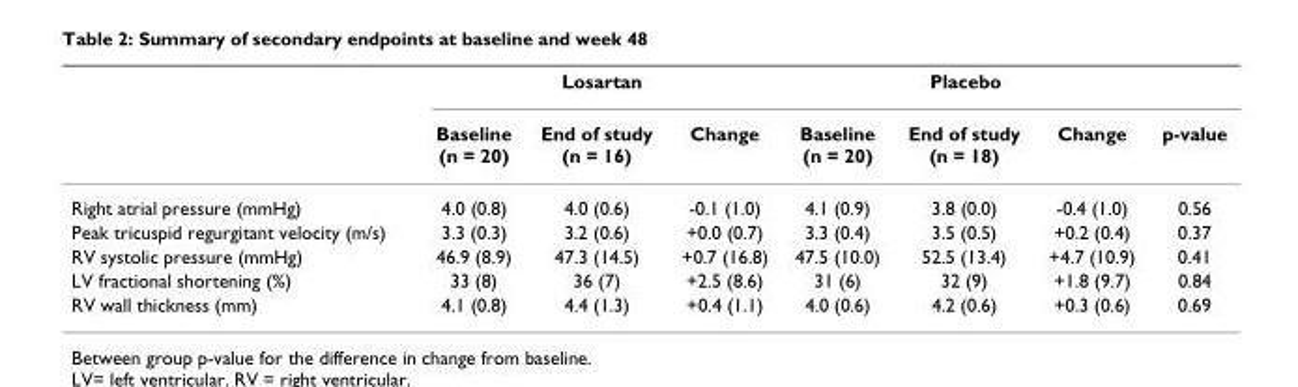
<table><thead><tr><td rowspan="2"></td><td colspan="3">Losartan</td><td colspan="3">Placebo</td><td rowspan="2">p-value</td></tr><tr><td>Baseline (n = 20)</td><td>End of study (n = 16)</td><td>Change</td><td>Baseline (n = 20)</td><td>End of study (n = 18)</td><td>Change</td></tr></thead><tbody><tr><td>Right atrial pressure (mmHg)</td><td>4.0 (0.8)</td><td>4.0 (0.6)</td><td>-0.1 (1.0)</td><td>4.1 (0.9)</td><td>3.8 (0.0)</td><td>-0.4 (1.0)</td><td>0.56</td></tr><tr><td>Peak tricuspid regurgitant velocity (m/s)</td><td>3.3 (0.3)</td><td>3.2 (0.6)</td><td>+0.0 (0.7)</td><td>3.3 (0.4)</td><td>3.5 (0.5)</td><td>+0.2 (0.4)</td><td>0.37</td></tr><tr><td>RV systolic pressure (mmHg)</td><td>46.9 (8.9)</td><td>47.3 (14.5)</td><td>+0.7 (16.8)</td><td>47.5 (10.0)</td><td>52.5 (13.4)</td><td>+4.7 (10.9)</td><td>0.41</td></tr><tr><td>LV fractional shortening (%)</td><td>33 (8)</td><td>36 (7)</td><td>+2.5 (8.6)</td><td>31 (6)</td><td>32 (9)</td><td>+1.8 (9.7)</td><td>0.84</td></tr><tr><td>RV wall thickness (mm)</td><td>4.1 (0.8)</td><td>4.4 (1.3)</td><td>+0.4 (1.1)</td><td>4.0 (0.6)</td><td>4.2 (0.6)</td><td>+0.3 (0.6)</td><td>0.69</td></tr></tbody></table>